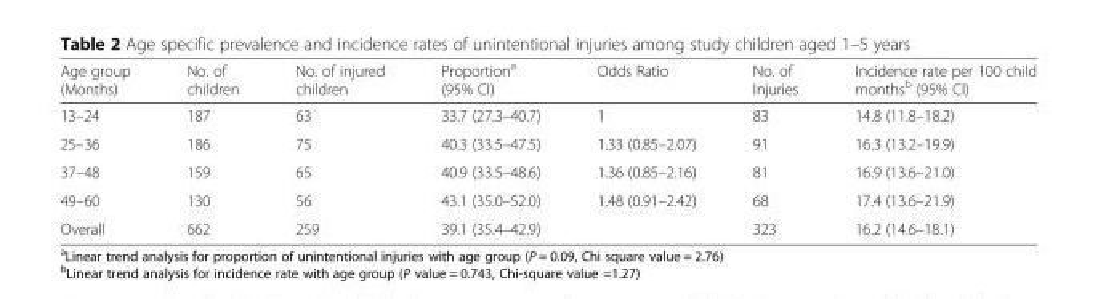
<table><thead><tr><td>Age group (Months)</td><td>No. of children</td><td>No. of injured children</td><td>Proportion<sup>a</sup> (95% CI)</td><td>Odds Ratio</td><td>No. of Injuries</td><td>Incidence rate per 100 child months<sup>b</sup> (95% CI)</td></tr></thead><tbody><tr><td>13–24</td><td>187</td><td>63</td><td>33.7 (27.3–40.7)</td><td>1</td><td>83</td><td>14.8 (11.8–18.2)</td></tr><tr><td>25–36</td><td>186</td><td>75</td><td>40.3 (33.5–47.5)</td><td>1.33 (0.85–2.07)</td><td>91</td><td>16.3 (13.2–19.9)</td></tr><tr><td>37–48</td><td>159</td><td>65</td><td>40.9 (33.5–48.6)</td><td>1.36 (0.85–2.16)</td><td>81</td><td>16.9 (13.6–21.0)</td></tr><tr><td>49–60</td><td>130</td><td>56</td><td>43.1 (35.0–52.0)</td><td>1.48 (0.91–2.42)</td><td>68</td><td>17.4 (13.6–21.9)</td></tr><tr><td>Overall</td><td>662</td><td>259</td><td>39.1 (35.4–42.9)</td><td></td><td>323</td><td>16.2 (14.6–18.1)</td></tr></tbody></table>